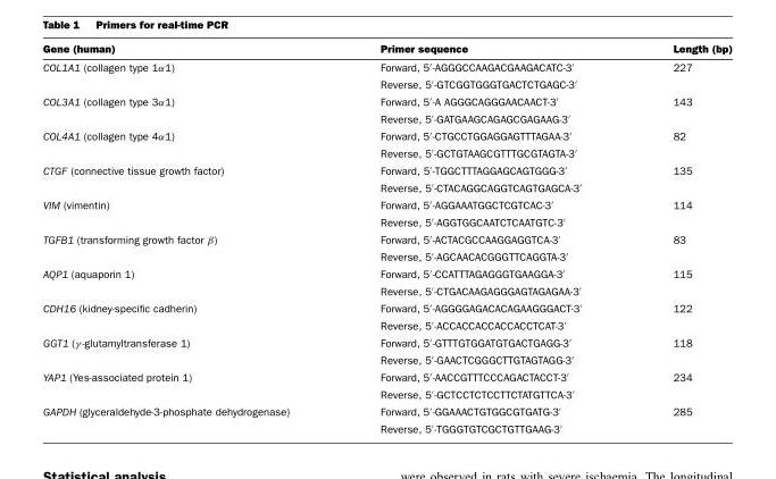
<table><thead><tr><td>Gene (human)</td><td>Primer sequence</td><td>Length (bp)</td></tr></thead><tbody><tr><td rowspan="2">COL1A1 (collagen type 1α1)</td><td>Forward, 5′-AGGGCCAAGACGAAGACATC-3′</td><td>227</td></tr><tr><td>Reverse, 5′-GTCGGTGGGTGACTCTGAGC-3′</td><td></td></tr><tr><td rowspan="2">COL3A1 (collagen type 3α1)</td><td>Forward, 5′-A AGGGCAGGGAACAACT-3′</td><td>143</td></tr><tr><td>Reverse, 5′-GATGAAGCAGAGCGAGAAG-3′</td><td></td></tr><tr><td rowspan="2">COL4A1 (collagen type 4α1)</td><td>Forward, 5′-CTGCCTGGAGGAGTTTAGAA-3′</td><td>82</td></tr><tr><td>Reverse, 5′-GCTGTAAGCGTTTGCGTAGTA-3′</td><td></td></tr><tr><td rowspan="2">CTGF (connective tissue growth factor)</td><td>Forward, 5′-TGGCTTTAGGAGCAGTGGG-3′</td><td>135</td></tr><tr><td>Reverse, 5′-CTACAGGCAGGTCAGTGAGCA-3′</td><td></td></tr><tr><td rowspan="2">VIM (vimentin)</td><td>Forward, 5′-AGGAAATGGCTCGTCAC-3′</td><td>114</td></tr><tr><td>Reverse, 5′-AGGTGGCAATCTCAATGTC-3′</td><td></td></tr><tr><td rowspan="2">TGFB1 (transforming growth factor β)</td><td>Forward, 5′-ACTACGCCAAGGAGGTCA-3′</td><td>83</td></tr><tr><td>Reverse, 5′-AGCAACACGGGTTCAGGTA-3′</td><td></td></tr><tr><td rowspan="2">AQP1 (aquaporin 1)</td><td>Forward, 5′-CCATTTAGAGGGTGAAGGA-3′</td><td>115</td></tr><tr><td>Reverse, 5′-CTGACAAGAGGGAGTAGAGAA-3′</td><td></td></tr><tr><td rowspan="2">CDH16 (kidney-specific cadherin)</td><td>Forward, 5′-AGGGGAGACACAGAAGGGACT-3′</td><td>122</td></tr><tr><td>Reverse, 5′-ACCACCACCACCACCTCAT-3′</td><td></td></tr><tr><td rowspan="2">GGT1 (γ -glutamyltransferase 1)</td><td>Forward, 5′-GTTTGTGGATGTGACTGAGG-3′</td><td>118</td></tr><tr><td>Reverse, 5′-GAACTCGGGCTTGTAGTAGG-3′</td><td></td></tr><tr><td rowspan="2">YAP1 (Yes-associated protein 1)</td><td>Forward, 5′-AACCGTTTCCCAGACTACCT-3′</td><td>234</td></tr><tr><td>Reverse, 5′-GCTCCTCTCCTTCTATGTTCA-3′</td><td></td></tr><tr><td rowspan="2">GAPDH (glyceraldehyde-3-phosphate dehydrogenase)</td><td>Forward, 5′-GGAAACTGTGGCGTGATG-3′</td><td>285</td></tr><tr><td>Reverse, 5′-TGGGTGTCGCTGTTGAAG-3′</td><td></td></tr></tbody></table>